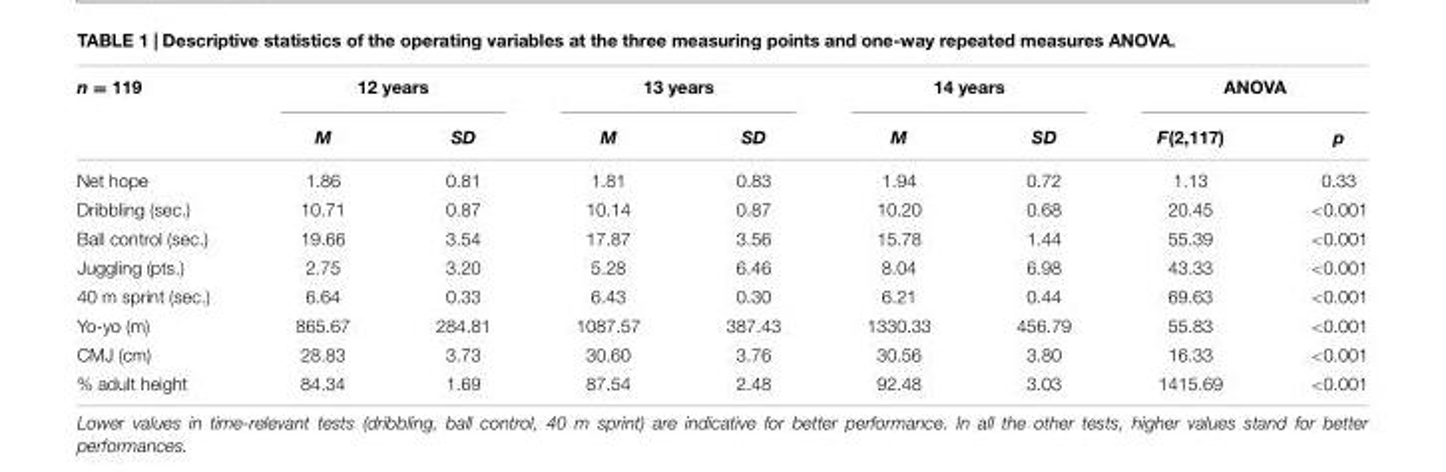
<table><thead><tr><td rowspan="2">n = 119</td><td colspan="2">12 years</td><td colspan="2">13 years</td><td colspan="2">14 years</td><td colspan="2">ANOVA</td></tr><tr><td>M</td><td>SD</td><td>M</td><td>SD</td><td>M</td><td>SD</td><td>F(2,117)</td><td>p</td></tr></thead><tbody><tr><td>Net hope</td><td>1.86</td><td>0.81</td><td>1.81</td><td>0.83</td><td>1.94</td><td>0.72</td><td>1.13</td><td>0.33</td></tr><tr><td>Dribbling (sec.)</td><td>10.71</td><td>0.87</td><td>10.14</td><td>0.87</td><td>10.20</td><td>0.68</td><td>20.45</td><td>&lt;0.001</td></tr><tr><td>Ball control (sec.)</td><td>19.66</td><td>3.54</td><td>17.87</td><td>3.56</td><td>15.78</td><td>1.44</td><td>55.39</td><td>&lt;0.001</td></tr><tr><td>Juggling (pts.)</td><td>2.75</td><td>3.20</td><td>5.28</td><td>6.46</td><td>8.04</td><td>6.98</td><td>43.33</td><td>&lt;0.001</td></tr><tr><td>40 m sprint (sec.)</td><td>6.64</td><td>0.33</td><td>6.43</td><td>0.30</td><td>6.21</td><td>0.44</td><td>69.63</td><td>&lt;0.001</td></tr><tr><td>Yo-yo (m)</td><td>865.67</td><td>284.81</td><td>1087.57</td><td>387.43</td><td>1330.33</td><td>456.79</td><td>55.83</td><td>&lt;0.001</td></tr><tr><td>CMJ (cm)</td><td>28.83</td><td>3.73</td><td>30.60</td><td>3.76</td><td>30.56</td><td>3.80</td><td>16.33</td><td>&lt;0.001</td></tr><tr><td>% adult height</td><td>84.34</td><td>1.69</td><td>87.54</td><td>2.48</td><td>92.48</td><td>3.03</td><td>1415.69</td><td>&lt;0.001</td></tr></tbody></table>